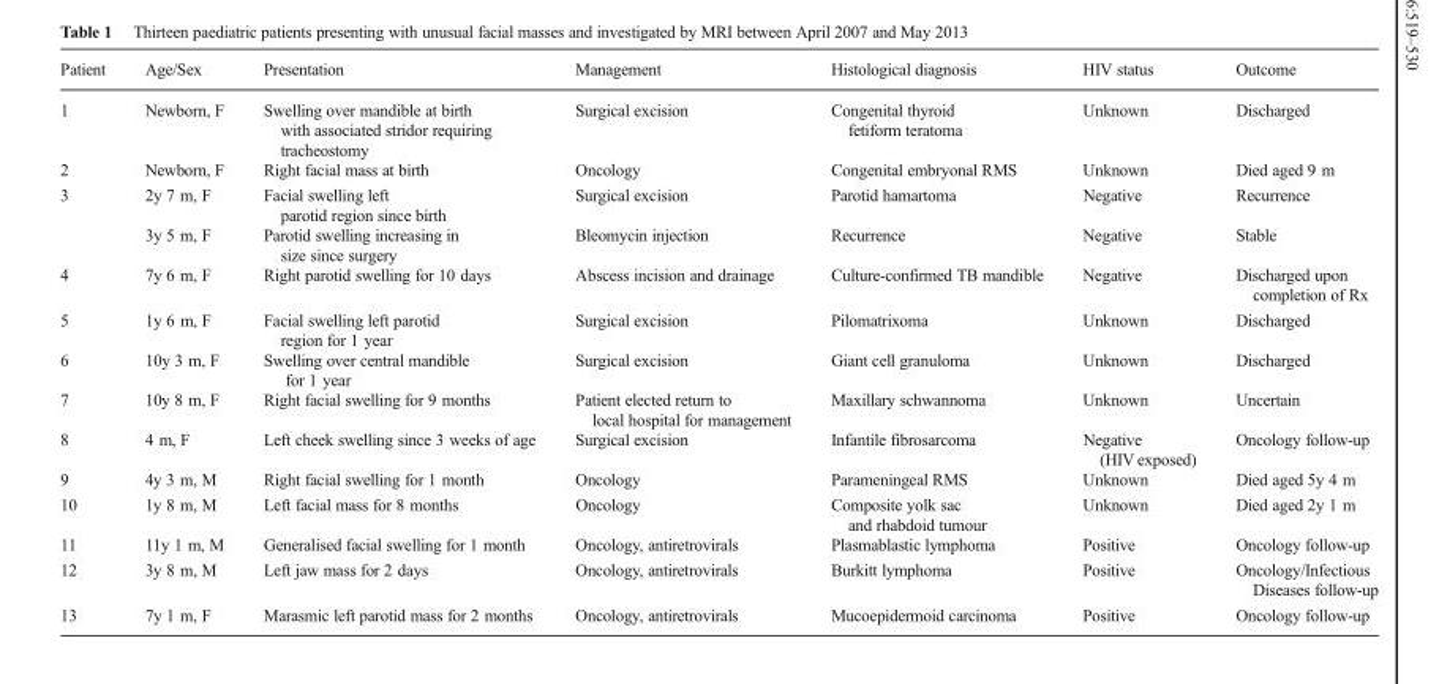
<table><thead><tr><td>Patient</td><td>Age/Sex</td><td>Presentation</td><td>Management</td><td>Histological diagnosis</td><td>HIV status</td><td>Outcome</td></tr></thead><tbody><tr><td>1</td><td>Newborn, F</td><td>Swelling over mandible at birth with associated stridor requiring tracheostomy</td><td>Surgical excision</td><td>Congenital thyroid fetiform teratoma</td><td>Unknown</td><td>Discharged</td></tr><tr><td>2</td><td>Newborn, F</td><td>Right facial mass at birth</td><td>Oncology</td><td>Congenital embryonal RMS</td><td>Unknown</td><td>Died aged 9 m</td></tr><tr><td rowspan="2">3</td><td>2y 7 m, F</td><td>Facial swelling left parotid region since birth</td><td>Surgical excision</td><td>Parotid hamartoma</td><td>Negative</td><td>Recurrence</td></tr><tr><td>3y 5 m, F</td><td>Parotid swelling increasing in size since surgery</td><td>Bleomycin injection</td><td>Recurrence</td><td>Negative</td><td>Stable</td></tr><tr><td>4</td><td>7y 6 m, F</td><td>Right parotid swelling for 10 days</td><td>Abscess incision and drainage</td><td>Culture-confirmed TB mandible</td><td>Negative</td><td>Discharged upon completion of Rx</td></tr><tr><td>5</td><td>1y 6 m, F</td><td>Facial swelling left parotid region for 1 year</td><td>Surgical excision</td><td>Pilomatrixoma</td><td>Unknown</td><td>Discharged</td></tr><tr><td>6</td><td>10y 3 m, F</td><td>Swelling over central mandible for 1 year</td><td>Surgical excision</td><td>Giant cell granuloma</td><td>Unknown</td><td>Discharged</td></tr><tr><td>7</td><td>10y 8 m, F</td><td>Right facial swelling for 9 months</td><td>Patient elected return to local hospital for management</td><td>Maxillary schwannoma</td><td>Unknown</td><td>Uncertain</td></tr><tr><td>8</td><td>4 m, F</td><td>Left cheek swelling since 3 weeks of age</td><td>Surgical excision</td><td>Infantile fibrosarcoma</td><td>Negative (HIV exposed)</td><td>Oncology follow-up</td></tr><tr><td>9</td><td>4y 3 m, M</td><td>Right facial swelling for 1 month</td><td>Oncology</td><td>Parameningeal RMS</td><td>Unknown</td><td>Died aged 5y 4 m</td></tr><tr><td>10</td><td>1y 8 m, M</td><td>Left facial mass for 8 months</td><td>Oncology</td><td>Composite yolk sac and rhabdoid tumour</td><td>Unknown</td><td>Died aged 2y 1 m</td></tr><tr><td>11</td><td>11y 1 m, M</td><td>Generalised facial swelling for 1 month</td><td>Oncology, antiretrovirals</td><td>Plasmablastic lymphoma</td><td>Positive</td><td>Oncology follow-up</td></tr><tr><td>12</td><td>3y 8 m, M</td><td>Left jaw mass for 2 days</td><td>Oncology, antiretrovirals</td><td>Burkitt lymphoma</td><td>Positive</td><td>Oncology/Infectious Diseases follow-up</td></tr><tr><td>13</td><td>7y 1 m, F</td><td>Marasmic left parotid mass for 2 months</td><td>Oncology, antiretrovirals</td><td>Mucoepidermoid carcinoma</td><td>Positive</td><td>Oncology follow-up</td></tr></tbody></table>